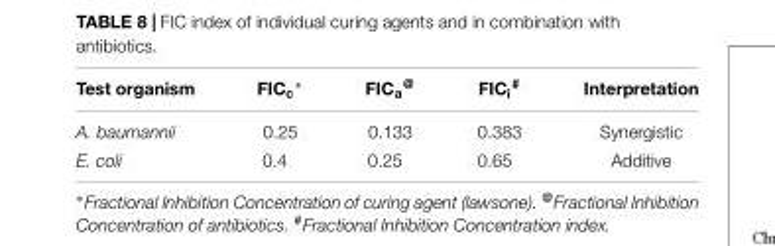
<table><thead><tr><td>Test organism</td><td>FIC<sub>c</sub>∗</td><td>FIC<sub>a</sub><sup>@</sup></td><td>FIC<sub>i</sub><sup>#</sup></td><td>Interpretation</td></tr></thead><tbody><tr><td>A. baumannii</td><td>0.25</td><td>0.133</td><td>0.383</td><td>Synergistic</td></tr><tr><td>E. coli</td><td>0.4</td><td>0.25</td><td>0.65</td><td>Additive</td></tr></tbody></table>